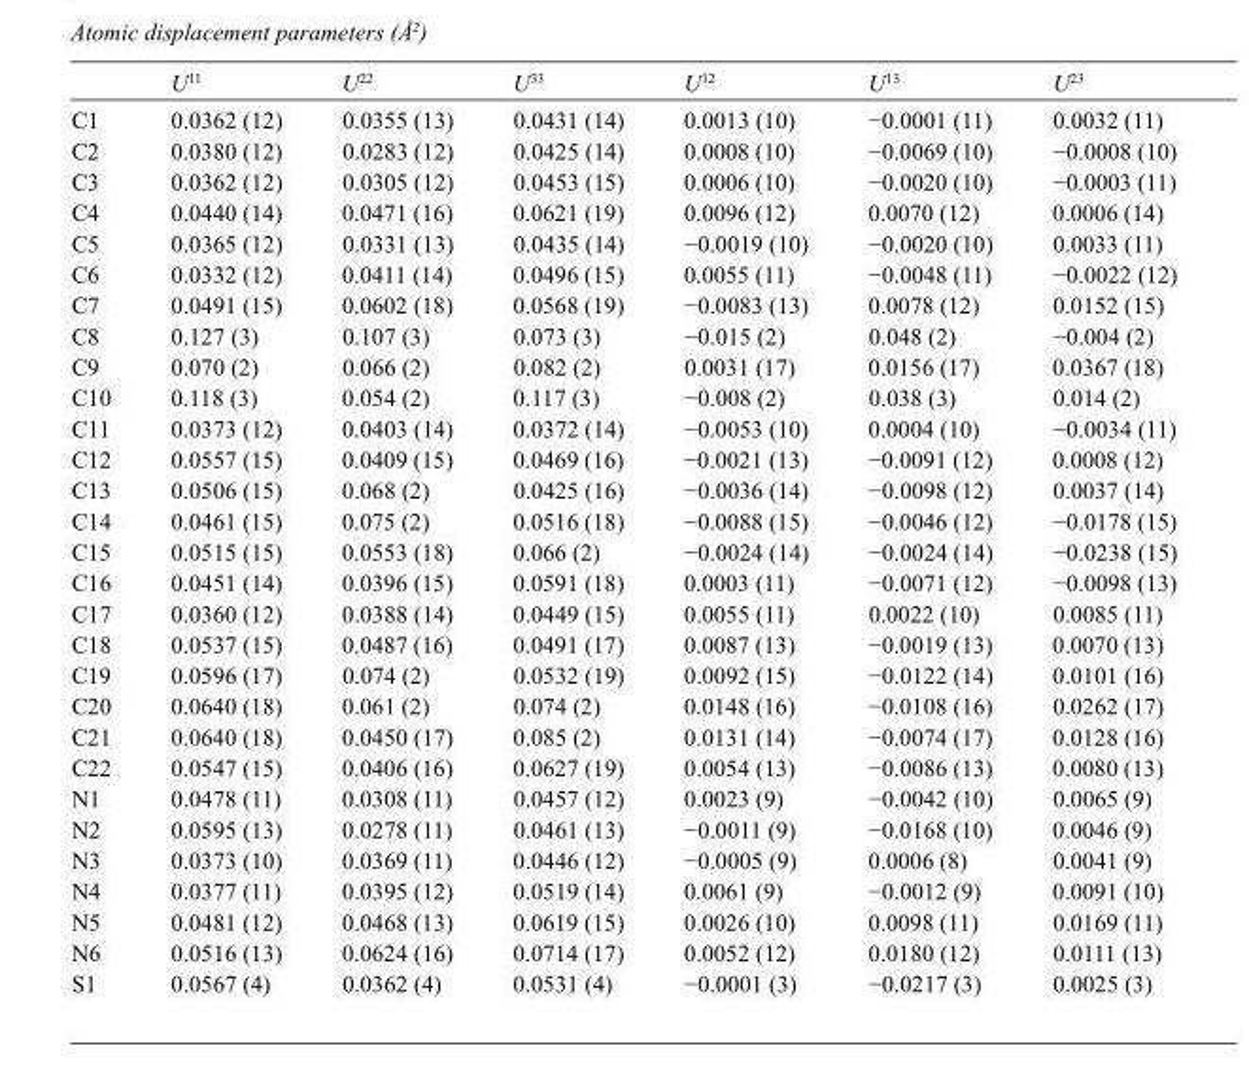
<table><thead><tr><td></td><td>U<sup>11</sup></td><td>U<sup>22</sup></td><td>U<sup>33</sup></td><td>U<sup>12</sup></td><td>U<sup>13</sup></td><td>U<sup>23</sup></td></tr></thead><tbody><tr><td>C1</td><td>0.0362 (12)</td><td>0.0355 (13)</td><td>0.0431 (14)</td><td>0.0013 (10)</td><td>−0.0001 (11)</td><td>0.0032 (11)</td></tr><tr><td>C2</td><td>0.0380 (12)</td><td>0.0283 (12)</td><td>0.0425 (14)</td><td>0.0008 (10)</td><td>−0.0069 (10)</td><td>−0.0008 (10)</td></tr><tr><td>C3</td><td>0.0362 (12)</td><td>0.0305 (12)</td><td>0.0453 (15)</td><td>0.0006 (10)</td><td>−0.0020 (10)</td><td>−0.0003 (11)</td></tr><tr><td>C4</td><td>0.0440 (14)</td><td>0.0471 (16)</td><td>0.0621 (19)</td><td>0.0096 (12)</td><td>0.0070 (12)</td><td>0.0006 (14)</td></tr><tr><td>C5</td><td>0.0365 (12)</td><td>0.0331 (13)</td><td>0.0435 (14)</td><td>−0.0019 (10)</td><td>−0.0020 (10)</td><td>0.0033 (11)</td></tr><tr><td>C6</td><td>0.0332 (12)</td><td>0.0411 (14)</td><td>0.0496 (15)</td><td>0.0055 (11)</td><td>−0.0048 (11)</td><td>−0.0022 (12)</td></tr><tr><td>C7</td><td>0.0491 (15)</td><td>0.0602 (18)</td><td>0.0568 (19)</td><td>−0.0083 (13)</td><td>0.0078 (12)</td><td>0.0152 (15)</td></tr><tr><td>C8</td><td>0.127 (3)</td><td>0.107 (3)</td><td>0.073 (3)</td><td>−0.015 (2)</td><td>0.048 (2)</td><td>−0.004 (2)</td></tr><tr><td>C9</td><td>0.070 (2)</td><td>0.066 (2)</td><td>0.082 (2)</td><td>0.0031 (17)</td><td>0.0156 (17)</td><td>0.0367 (18)</td></tr><tr><td>C10</td><td>0.118 (3)</td><td>0.054 (2)</td><td>0.117 (3)</td><td>−0.008 (2)</td><td>0.038 (3)</td><td>0.014 (2)</td></tr><tr><td>C11</td><td>0.0373 (12)</td><td>0.0403 (14)</td><td>0.0372 (14)</td><td>−0.0053 (10)</td><td>0.0004 (10)</td><td>−0.0034 (11)</td></tr><tr><td>C12</td><td>0.0557 (15)</td><td>0.0409 (15)</td><td>0.0469 (16)</td><td>−0.0021 (13)</td><td>−0.0091 (12)</td><td>0.0008 (12)</td></tr><tr><td>C13</td><td>0.0506 (15)</td><td>0.068 (2)</td><td>0.0425 (16)</td><td>−0.0036 (14)</td><td>−0.0098 (12)</td><td>0.0037 (14)</td></tr><tr><td>C14</td><td>0.0461 (15)</td><td>0.075 (2)</td><td>0.0516 (18)</td><td>−0.0088 (15)</td><td>−0.0046 (12)</td><td>−0.0178 (15)</td></tr><tr><td>C15</td><td>0.0515 (15)</td><td>0.0553 (18)</td><td>0.066 (2)</td><td>−0.0024 (14)</td><td>−0.0024 (14)</td><td>−0.0238 (15)</td></tr><tr><td>C16</td><td>0.0451 (14)</td><td>0.0396 (15)</td><td>0.0591 (18)</td><td>0.0003 (11)</td><td>−0.0071 (12)</td><td>−0.0098 (13)</td></tr><tr><td>C17</td><td>0.0360 (12)</td><td>0.0388 (14)</td><td>0.0449 (15)</td><td>0.0055 (11)</td><td>0.0022 (10)</td><td>0.0085 (11)</td></tr><tr><td>C18</td><td>0.0537 (15)</td><td>0.0487 (16)</td><td>0.0491 (17)</td><td>0.0087 (13)</td><td>−0.0019 (13)</td><td>0.0070 (13)</td></tr><tr><td>C19</td><td>0.0596 (17)</td><td>0.074 (2)</td><td>0.0532 (19)</td><td>0.0092 (15)</td><td>−0.0122 (14)</td><td>0.0101 (16)</td></tr><tr><td>C20</td><td>0.0640 (18)</td><td>0.061 (2)</td><td>0.074 (2)</td><td>0.0148 (16)</td><td>−0.0108 (16)</td><td>0.0262 (17)</td></tr><tr><td>C21</td><td>0.0640 (18)</td><td>0.0450 (17)</td><td>0.085 (2)</td><td>0.0131 (14)</td><td>−0.0074 (17)</td><td>0.0128 (16)</td></tr><tr><td>C22</td><td>0.0547 (15)</td><td>0.0406 (16)</td><td>0.0627 (19)</td><td>0.0054 (13)</td><td>−0.0086 (13)</td><td>0.0080 (13)</td></tr><tr><td>N1</td><td>0.0478 (11)</td><td>0.0308 (11)</td><td>0.0457 (12)</td><td>0.0023 (9)</td><td>−0.0042 (10)</td><td>0.0065 (9)</td></tr><tr><td>N2</td><td>0.0595 (13)</td><td>0.0278 (11)</td><td>0.0461 (13)</td><td>−0.0011 (9)</td><td>−0.0168 (10)</td><td>0.0046 (9)</td></tr><tr><td>N3</td><td>0.0373 (10)</td><td>0.0369 (11)</td><td>0.0446 (12)</td><td>−0.0005 (9)</td><td>0.0006 (8)</td><td>0.0041 (9)</td></tr><tr><td>N4</td><td>0.0377 (11)</td><td>0.0395 (12)</td><td>0.0519 (14)</td><td>0.0061 (9)</td><td>−0.0012 (9)</td><td>0.0091 (10)</td></tr><tr><td>N5</td><td>0.0481 (12)</td><td>0.0468 (13)</td><td>0.0619 (15)</td><td>0.0026 (10)</td><td>0.0098 (11)</td><td>0.0169 (11)</td></tr><tr><td>N6</td><td>0.0516 (13)</td><td>0.0624 (16)</td><td>0.0714 (17)</td><td>0.0052 (12)</td><td>0.0180 (12)</td><td>0.0111 (13)</td></tr><tr><td>S1</td><td>0.0567 (4)</td><td>0.0362 (4)</td><td>0.0531 (4)</td><td>−0.0001 (3)</td><td>−0.0217 (3)</td><td>0.0025 (3)</td></tr></tbody></table>